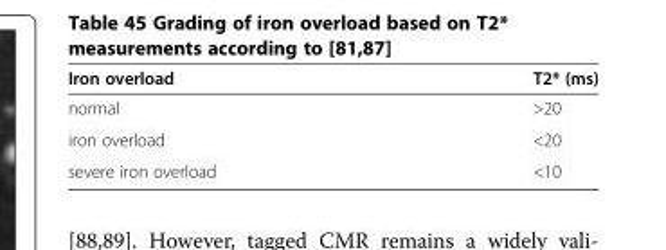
<table><thead><tr><td>Iron overload</td><td>T2* (ms)</td></tr></thead><tbody><tr><td>normal</td><td>&gt;20</td></tr><tr><td>iron overload</td><td>&lt;20</td></tr><tr><td>severe iron overload</td><td>&lt;10</td></tr></tbody></table>